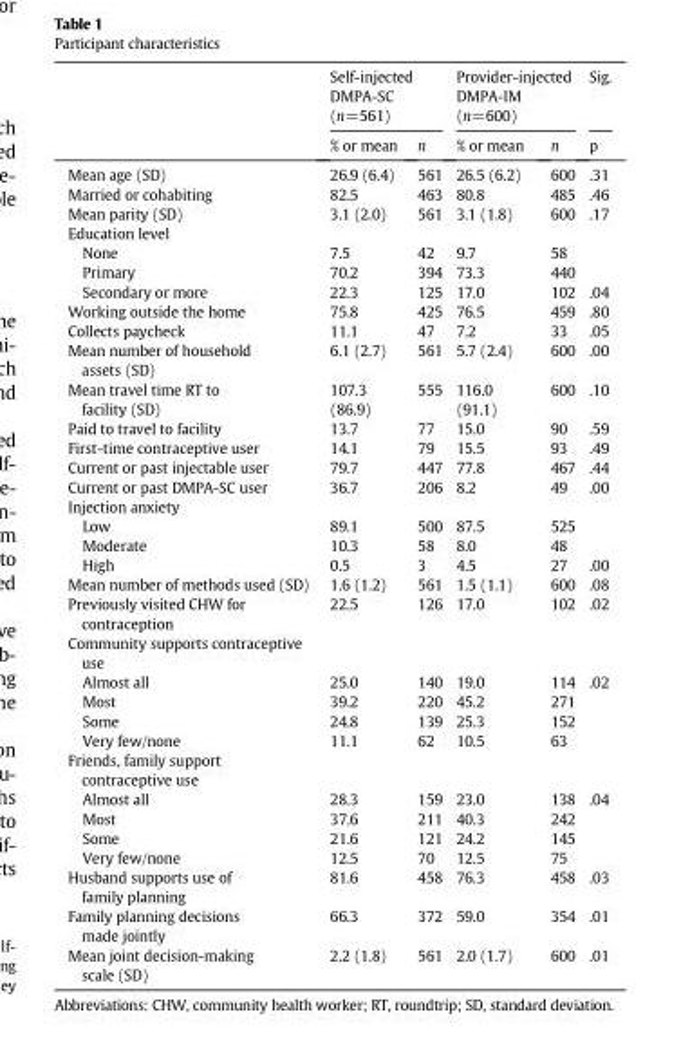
<table><thead><tr><td rowspan="2"></td><td colspan="2">Self-injected DMPA-SC (n=561)</td><td colspan="2">Provider-injected DMPA-IM (n=600)</td><td rowspan="2">Sig. p</td></tr><tr><td>% or mean</td><td>n</td><td>% or mean</td><td>n</td></tr></thead><tbody><tr><td>Mean age (SD)</td><td>26.9 (6.4)</td><td>561</td><td>26.5 (6.2)</td><td>600</td><td>.31</td></tr><tr><td>Married or cohabiting</td><td>82.5</td><td>463</td><td>80.8</td><td>485</td><td>.46</td></tr><tr><td>Mean parity (SD)</td><td>3.1 (2.0)</td><td>561</td><td>3.1 (1.8)</td><td>600</td><td>.17</td></tr><tr><td colspan="6">Education level</td></tr><tr><td>None</td><td>7.5</td><td>42</td><td>9.7</td><td>58</td><td></td></tr><tr><td>Primary</td><td>70.2</td><td>394</td><td>73.3</td><td>440</td><td></td></tr><tr><td>Secondary or more</td><td>22.3</td><td>125</td><td>17.0</td><td>102</td><td>.04</td></tr><tr><td>Working outside the home</td><td>75.8</td><td>425</td><td>76.5</td><td>459</td><td>.80</td></tr><tr><td>Collects paycheck</td><td>11.1</td><td>47</td><td>7.2</td><td>33</td><td>.05</td></tr><tr><td>Mean number of household assets (SD)</td><td>6.1 (2.7)</td><td>561</td><td>5.7 (2.4)</td><td>600</td><td>.00</td></tr><tr><td>Mean travel time RT to facility (SD)</td><td>107.3 (86.9)</td><td>555</td><td>116.0 (91.1)</td><td>600</td><td>.10</td></tr><tr><td>Paid to travel to facility</td><td>13.7</td><td>77</td><td>15.0</td><td>90</td><td>.59</td></tr><tr><td>First-time contraceptive user</td><td>14.1</td><td>79</td><td>15.5</td><td>93</td><td>.49</td></tr><tr><td>Current or past injectable user</td><td>79.7</td><td>447</td><td>77.8</td><td>467</td><td>.44</td></tr><tr><td>Current or past DMPA-SC user</td><td>36.7</td><td>206</td><td>8.2</td><td>49</td><td>.00</td></tr><tr><td colspan="6">Injection anxiety</td></tr><tr><td>Low</td><td>89.1</td><td>500</td><td>87.5</td><td>525</td><td></td></tr><tr><td>Moderate</td><td>10.3</td><td>58</td><td>8.0</td><td>48</td><td></td></tr><tr><td>High</td><td>0.5</td><td>3</td><td>4.5</td><td>27</td><td>.00</td></tr><tr><td>Mean number of methods used (SD)</td><td>1.6 (1.2)</td><td>561</td><td>1.5 (1.1)</td><td>600</td><td>.08</td></tr><tr><td>Previously visited CHW for contraception</td><td>22.5</td><td>126</td><td>17.0</td><td>102</td><td>.02</td></tr><tr><td colspan="6">Community supports contraceptive use</td></tr><tr><td>Almost all</td><td>25.0</td><td>140</td><td>19.0</td><td>114</td><td>.02</td></tr><tr><td>Most</td><td>39.2</td><td>220</td><td>45.2</td><td>271</td><td></td></tr><tr><td>Some</td><td>24.8</td><td>139</td><td>25.3</td><td>152</td><td></td></tr><tr><td>Very few/none</td><td>11.1</td><td>62</td><td>10.5</td><td>63</td><td></td></tr><tr><td colspan="6">Friends, family support contraceptive use</td></tr><tr><td>Almost all</td><td>28.3</td><td>159</td><td>23.0</td><td>138</td><td>.04</td></tr><tr><td>Most</td><td>37.6</td><td>211</td><td>40.3</td><td>242</td><td></td></tr><tr><td>Some</td><td>21.6</td><td>121</td><td>24.2</td><td>145</td><td></td></tr><tr><td>Very few/none</td><td>12.5</td><td>70</td><td>12.5</td><td>75</td><td></td></tr><tr><td>Husband supports use of family planning</td><td>81.6</td><td>458</td><td>76.3</td><td>458</td><td>.03</td></tr><tr><td>Family planning decisions made jointly</td><td>66.3</td><td>372</td><td>59.0</td><td>354</td><td>.01</td></tr><tr><td>Mean joint decision-making scale (SD)</td><td>2.2 (1.8)</td><td>561</td><td>2.0 (1.7)</td><td>600</td><td>.01</td></tr></tbody></table>